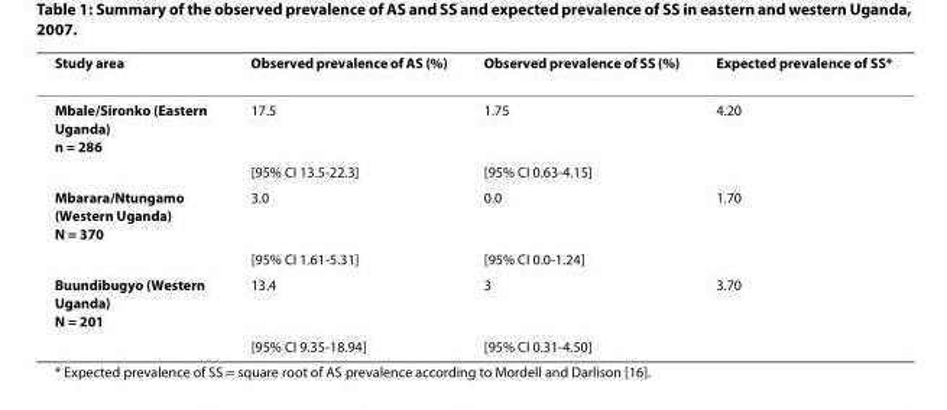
<table><thead><tr><td>Study area</td><td>Observed prevalence of AS (%)</td><td>Observed prevalence of SS (%)</td><td>Expected prevalence of SS*</td></tr></thead><tbody><tr><td rowspan="2">Mbale/Sironko (Eastern Uganda) n = 286</td><td>17.5</td><td>1.75</td><td>4.20</td></tr><tr><td>[95% CI 13.5-22.3]</td><td>[95% CI 0.63-4.15]</td><td></td></tr><tr><td rowspan="2">Mbarara/Ntungamo (Western Uganda) N = 370</td><td>3.0</td><td>0.0</td><td>1.70</td></tr><tr><td>[95% CI 1.61-5.31]</td><td>[95% CI 0.0-1.24]</td><td></td></tr><tr><td rowspan="2">Buundibugyo (Western Uganda) N = 201</td><td>13.4</td><td>3</td><td>3.70</td></tr><tr><td>[95% CI 9.35-18.94]</td><td>[95% CI 0.31-4.50]</td><td></td></tr></tbody></table>